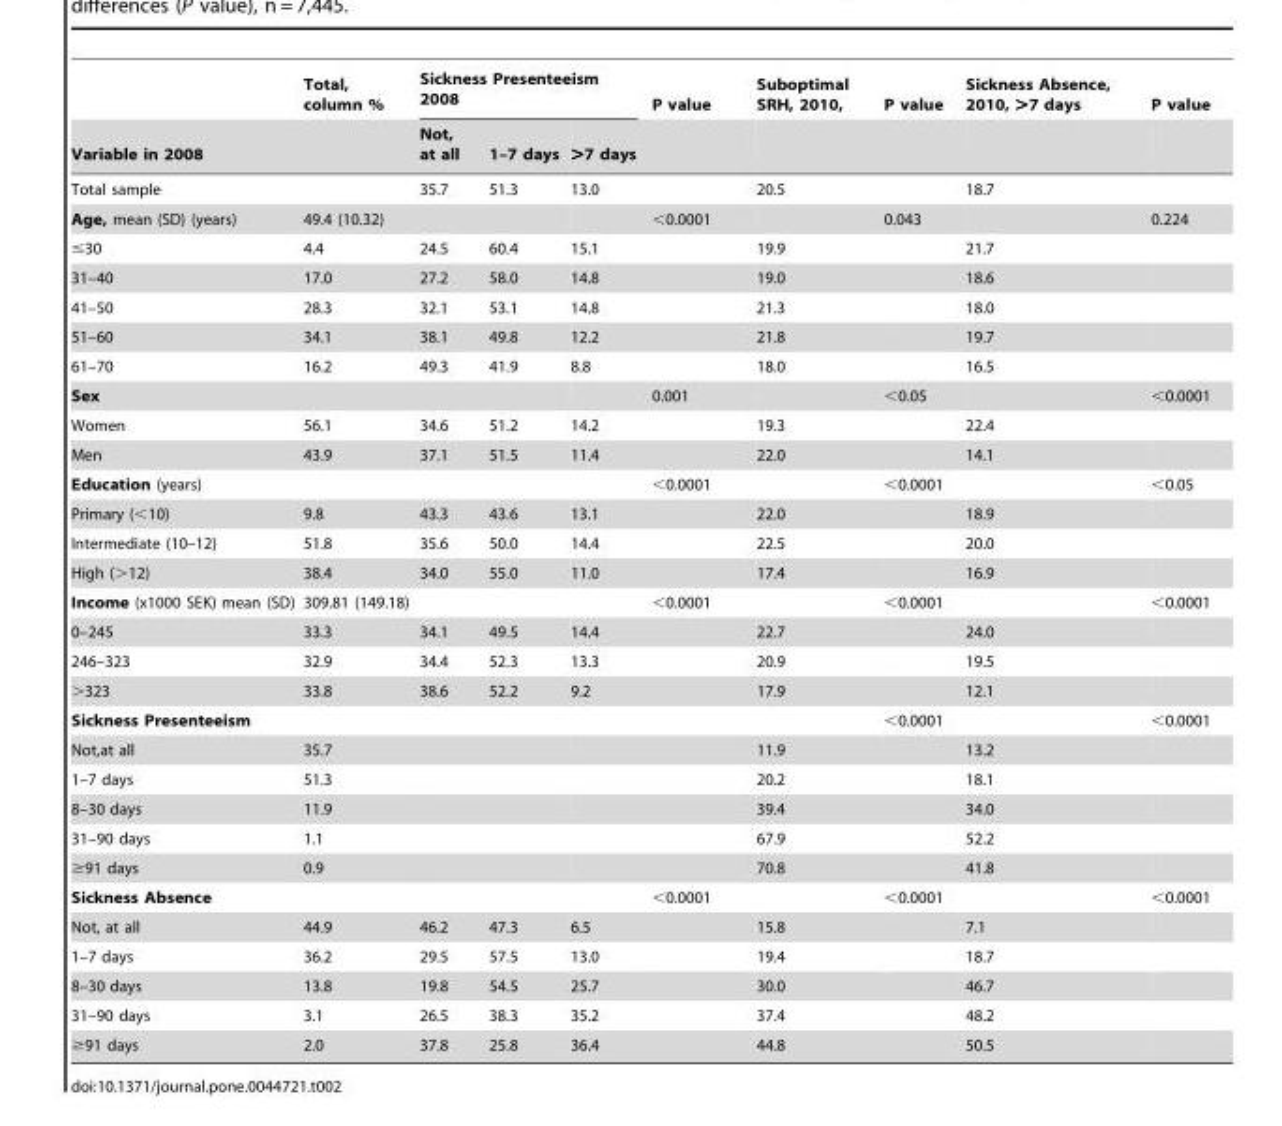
<table><thead><tr><td rowspan="2">Variable in 2008</td><td rowspan="2">Total, column %</td><td colspan="3">Sickness Presenteeism 2008</td><td rowspan="2">P value</td><td rowspan="2">Suboptimal SRH, 2010,</td><td rowspan="2">P value</td><td rowspan="2">Sickness Absence, 2010, &gt;7 days</td><td rowspan="2">P value</td></tr><tr><td>Not, at all</td><td>1–7 days</td><td>&gt;7 days</td></tr></thead><tbody><tr><td>Total sample</td><td></td><td>35.7</td><td>51.3</td><td>13.0</td><td></td><td>20.5</td><td></td><td>18.7</td><td></td></tr><tr><td>Age, mean (SD) (years)</td><td>49.4 (10.32)</td><td></td><td></td><td></td><td>&lt;0.0001</td><td></td><td>0.043</td><td></td><td>0.224</td></tr><tr><td>≤30</td><td>4.4</td><td>24.5</td><td>60.4</td><td>15.1</td><td></td><td>19.9</td><td></td><td>21.7</td><td></td></tr><tr><td>31–40</td><td>17.0</td><td>27.2</td><td>58.0</td><td>14.8</td><td></td><td>19.0</td><td></td><td>18.6</td><td></td></tr><tr><td>41–50</td><td>28.3</td><td>32.1</td><td>53.1</td><td>14.8</td><td></td><td>21.3</td><td></td><td>18.0</td><td></td></tr><tr><td>51–60</td><td>34.1</td><td>38.1</td><td>49.8</td><td>12.2</td><td></td><td>21.8</td><td></td><td>19.7</td><td></td></tr><tr><td>61–70</td><td>16.2</td><td>49.3</td><td>41.9</td><td>8.8</td><td></td><td>18.0</td><td></td><td>16.5</td><td></td></tr><tr><td>Sex</td><td></td><td></td><td></td><td></td><td>0.001</td><td></td><td>&lt;0.05</td><td></td><td>&lt;0.0001</td></tr><tr><td>Women</td><td>56.1</td><td>34.6</td><td>51.2</td><td>14.2</td><td></td><td>19.3</td><td></td><td>22.4</td><td></td></tr><tr><td>Men</td><td>43.9</td><td>37.1</td><td>51.5</td><td>11.4</td><td></td><td>22.0</td><td></td><td>14.1</td><td></td></tr><tr><td>Education (years)</td><td></td><td></td><td></td><td></td><td>&lt;0.0001</td><td></td><td>&lt;0.0001</td><td></td><td>&lt;0.05</td></tr><tr><td>Primary (&lt;10)</td><td>9.8</td><td>43.3</td><td>43.6</td><td>13.1</td><td></td><td>22.0</td><td></td><td>18.9</td><td></td></tr><tr><td>Intermediate (10–12)</td><td>51.8</td><td>35.6</td><td>50.0</td><td>14.4</td><td></td><td>22.5</td><td></td><td>20.0</td><td></td></tr><tr><td>High (&gt;12)</td><td>38.4</td><td>34.0</td><td>55.0</td><td>11.0</td><td></td><td>17.4</td><td></td><td>16.9</td><td></td></tr><tr><td>Income (x1000 SEK) mean (SD)</td><td>309.81 (149.18)</td><td></td><td></td><td></td><td>&lt;0.0001</td><td></td><td>&lt;0.0001</td><td></td><td>&lt;0.0001</td></tr><tr><td>0–245</td><td>33.3</td><td>34.1</td><td>49.5</td><td>14.4</td><td></td><td>22.7</td><td></td><td>24.0</td><td></td></tr><tr><td>246–323</td><td>32.9</td><td>34.4</td><td>52.3</td><td>13.3</td><td></td><td>20.9</td><td></td><td>19.5</td><td></td></tr><tr><td>&gt;323</td><td>33.8</td><td>38.6</td><td>52.2</td><td>9.2</td><td></td><td>17.9</td><td></td><td>12.1</td><td></td></tr><tr><td>Sickness Presenteeism</td><td></td><td></td><td></td><td></td><td></td><td></td><td>&lt;0.0001</td><td></td><td>&lt;0.0001</td></tr><tr><td>Not,at all</td><td>35.7</td><td></td><td></td><td></td><td></td><td>11.9</td><td></td><td>13.2</td><td></td></tr><tr><td>1–7 days</td><td>51.3</td><td></td><td></td><td></td><td></td><td>20.2</td><td></td><td>18.1</td><td></td></tr><tr><td>8–30 days</td><td>11.9</td><td></td><td></td><td></td><td></td><td>39.4</td><td></td><td>34.0</td><td></td></tr><tr><td>31–90 days</td><td>1.1</td><td></td><td></td><td></td><td></td><td>67.9</td><td></td><td>52.2</td><td></td></tr><tr><td>≥91 days</td><td>0.9</td><td></td><td></td><td></td><td></td><td>70.8</td><td></td><td>41.8</td><td></td></tr><tr><td>Sickness Absence</td><td></td><td></td><td></td><td></td><td>&lt;0.0001</td><td></td><td>&lt;0.0001</td><td></td><td>&lt;0.0001</td></tr><tr><td>Not, at all</td><td>44.9</td><td>46.2</td><td>47.3</td><td>6.5</td><td></td><td>15.8</td><td></td><td>7.1</td><td></td></tr><tr><td>1–7 days</td><td>36.2</td><td>29.5</td><td>57.5</td><td>13.0</td><td></td><td>19.4</td><td></td><td>18.7</td><td></td></tr><tr><td>8–30 days</td><td>13.8</td><td>19.8</td><td>54.5</td><td>25.7</td><td></td><td>30.0</td><td></td><td>46.7</td><td></td></tr><tr><td>31–90 days</td><td>3.1</td><td>26.5</td><td>38.3</td><td>35.2</td><td></td><td>37.4</td><td></td><td>48.2</td><td></td></tr><tr><td>≥91 days</td><td>2.0</td><td>37.8</td><td>25.8</td><td>36.4</td><td></td><td>44.8</td><td></td><td>50.5</td><td></td></tr></tbody></table>